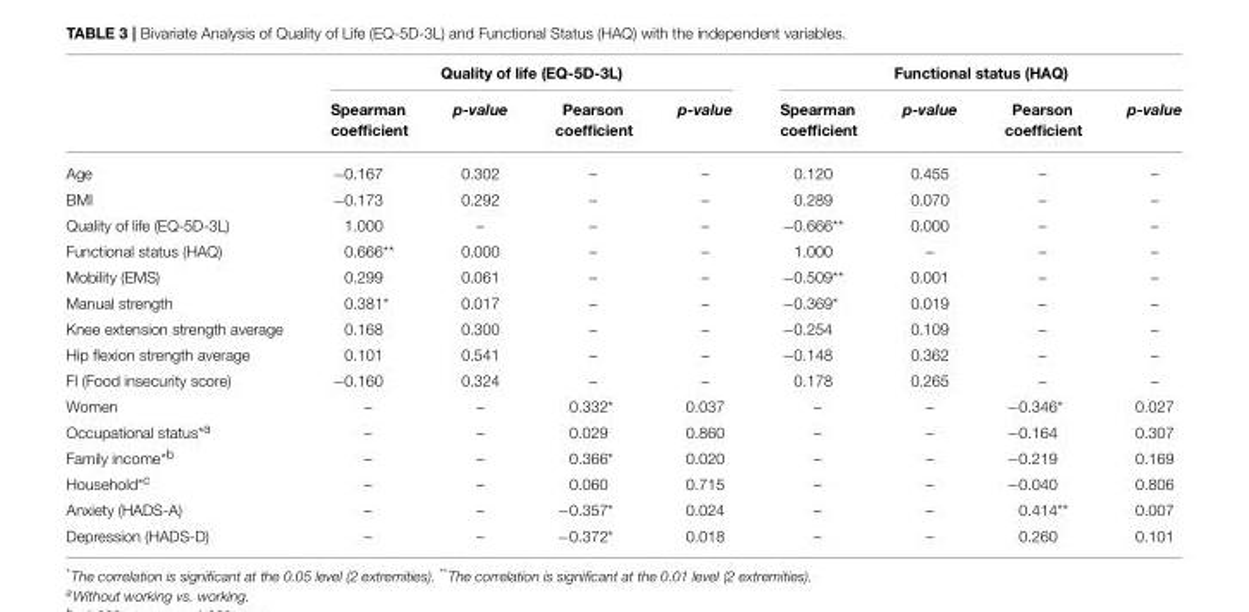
<table><thead><tr><td rowspan="2"></td><td colspan="4">Quality of life (EQ-5D-3L)</td><td colspan="4">Functional status (HAQ)</td></tr><tr><td>Spearman coefficient</td><td>p-value</td><td>Pearson coefficient</td><td>p-value</td><td>Spearman coefficient</td><td>p-value</td><td>Pearson coefficient</td><td>p-value</td></tr></thead><tbody><tr><td>Age</td><td>−0.167</td><td>0.302</td><td>–</td><td>–</td><td>0.120</td><td>0.455</td><td>–</td><td>–</td></tr><tr><td>BMI</td><td>−0.173</td><td>0.292</td><td>–</td><td>–</td><td>0.289</td><td>0.070</td><td>–</td><td>–</td></tr><tr><td>Quality of life (EQ-5D-3L)</td><td>1.000</td><td>–</td><td>–</td><td>–</td><td>−0.666**</td><td>0.000</td><td>–</td><td>–</td></tr><tr><td>Functional status (HAQ)</td><td>0.666**</td><td>0.000</td><td>–</td><td>–</td><td>1.000</td><td>–</td><td>–</td><td>–</td></tr><tr><td>Mobility (EMS)</td><td>0.299</td><td>0.061</td><td>–</td><td>–</td><td>−0.509**</td><td>0.001</td><td>–</td><td>–</td></tr><tr><td>Manual strength</td><td>0.381*</td><td>0.017</td><td>–</td><td>–</td><td>−0.369*</td><td>0.019</td><td>–</td><td>–</td></tr><tr><td>Knee extension strength average</td><td>0.168</td><td>0.300</td><td>–</td><td>–</td><td>−0.254</td><td>0.109</td><td>–</td><td>–</td></tr><tr><td>Hip flexion strength average</td><td>0.101</td><td>0.541</td><td>–</td><td>–</td><td>−0.148</td><td>0.362</td><td>–</td><td>–</td></tr><tr><td>FI (Food insecurity score)</td><td>−0.160</td><td>0.324</td><td>–</td><td>–</td><td>0.178</td><td>0.265</td><td>–</td><td>–</td></tr><tr><td>Women</td><td>–</td><td>–</td><td>0.332*</td><td>0.037</td><td>–</td><td>–</td><td>−0.346*</td><td>0.027</td></tr><tr><td>Occupational status<sup>*a</sup></td><td>–</td><td>–</td><td>0.029</td><td>0.860</td><td>–</td><td>–</td><td>−0.164</td><td>0.307</td></tr><tr><td>Family income<sup>*b</sup></td><td>–</td><td>–</td><td>0.366*</td><td>0.020</td><td>–</td><td>–</td><td>−0.219</td><td>0.169</td></tr><tr><td>Household<sup>*c</sup></td><td>–</td><td>–</td><td>0.060</td><td>0.715</td><td>–</td><td>–</td><td>−0.040</td><td>0.806</td></tr><tr><td>Anxiety (HADS-A)</td><td>–</td><td>–</td><td>−0.357*</td><td>0.024</td><td>–</td><td>–</td><td>0.414**</td><td>0.007</td></tr><tr><td>Depression (HADS-D)</td><td>–</td><td>–</td><td>−0.372*</td><td>0.018</td><td>–</td><td>–</td><td>0.260</td><td>0.101</td></tr></tbody></table>